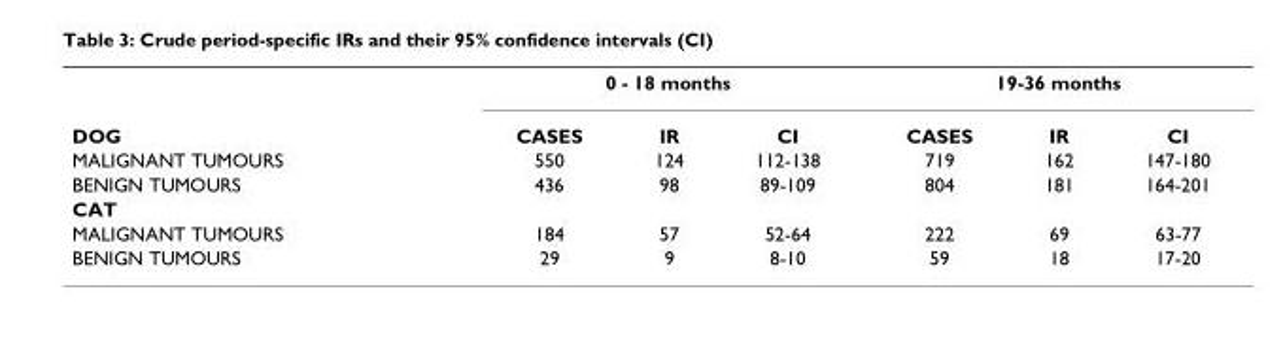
<table><thead><tr><td rowspan="2">DOG</td><td colspan="3">0 - 18 months</td><td colspan="3">19-36 months</td></tr><tr><td>CASES</td><td>IR</td><td>CI</td><td>CASES</td><td>IR</td><td>CI</td></tr></thead><tbody><tr><td>MALIGNANT TUMOURS</td><td>550</td><td>124</td><td>112-138</td><td>719</td><td>162</td><td>147-180</td></tr><tr><td>BENIGN TUMOURS</td><td>436</td><td>98</td><td>89-109</td><td>804</td><td>181</td><td>164-201</td></tr><tr><td colspan="7">CAT</td></tr><tr><td>MALIGNANT TUMOURS</td><td>184</td><td>57</td><td>52-64</td><td>222</td><td>69</td><td>63-77</td></tr><tr><td>BENIGN TUMOURS</td><td>29</td><td>9</td><td>8-10</td><td>59</td><td>18</td><td>17-20</td></tr></tbody></table>